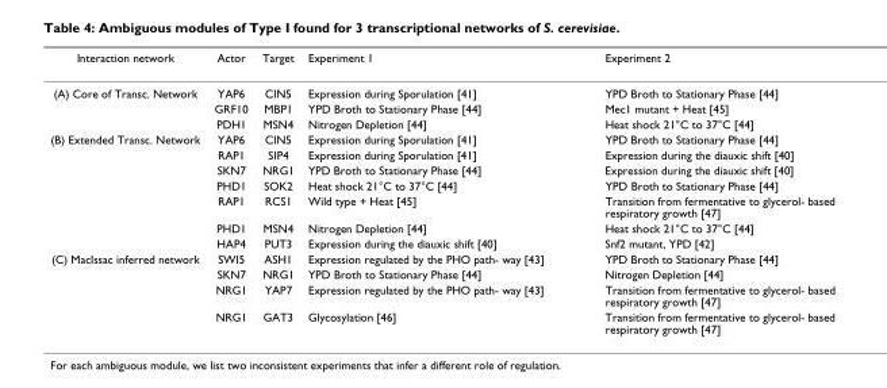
<table><thead><tr><td>Interaction network</td><td>Actor</td><td>Target</td><td>Experiment 1</td><td>Experiment 2</td></tr></thead><tbody><tr><td rowspan="3">(A) Core of Transc. Network</td><td>YAP6</td><td>CIN5</td><td>Expression during Sporulation [41]</td><td>YPD Broth to Stationary Phase [44]</td></tr><tr><td>GRF10</td><td>MBP1</td><td>YPD Broth to Stationary Phase [44]</td><td>Mec1 mutant + Heat [45]</td></tr><tr><td>PDH1</td><td>MSN4</td><td>Nitrogen Depletion [44]</td><td>Heat shock 21°C to 37°C [44]</td></tr><tr><td rowspan="7">(B) Extended Transc. Network</td><td>YAP6</td><td>CIN5</td><td>Expression during Sporulation [41]</td><td>YPD Broth to Stationary Phase [44]</td></tr><tr><td>RAP1</td><td>SIP4</td><td>Expression during Sporulation [41]</td><td>Expression during the diauxic shift [40]</td></tr><tr><td>SKN7</td><td>NRG1</td><td>YPD Broth to Stationary Phase [44]</td><td>Expression during the diauxic shift [40]</td></tr><tr><td>PHD1</td><td>SOK2</td><td>Heat shock 21°C to 37°C [44]</td><td>YPD Broth to Stationary Phase [44]</td></tr><tr><td>RAP1</td><td>RCS1</td><td>Wild type + Heat [45]</td><td>Transition from fermentative to glycerol- based respiratory growth [47]</td></tr><tr><td>PHD1</td><td>MSN4</td><td>Nitrogen Depletion [44]</td><td>Heat shock 21°C to 37°C [44]</td></tr><tr><td>HAP4</td><td>PUT3</td><td>Expression during the diauxic shift [40]</td><td>Snf2 mutant, YPD [42]</td></tr><tr><td rowspan="4">(C) MacIssac inferred network</td><td>SWI5</td><td>ASH1</td><td>Expression regulated by the PHO path- way [43]</td><td>YPD Broth to Stationary Phase [44]</td></tr><tr><td>SKN7</td><td>NRG1</td><td>YPD Broth to Stationary Phase [44]</td><td>Nitrogen Depletion [44]</td></tr><tr><td>NRG1</td><td>YAP7</td><td>Expression regulated by the PHO path- way [43]</td><td>Transition from fermentative to glycerol- based respiratory growth [47]</td></tr><tr><td>NRG1</td><td>GAT3</td><td>Glycosylation [46]</td><td>Transition from fermentative to glycerol- based respiratory growth [47]</td></tr></tbody></table>